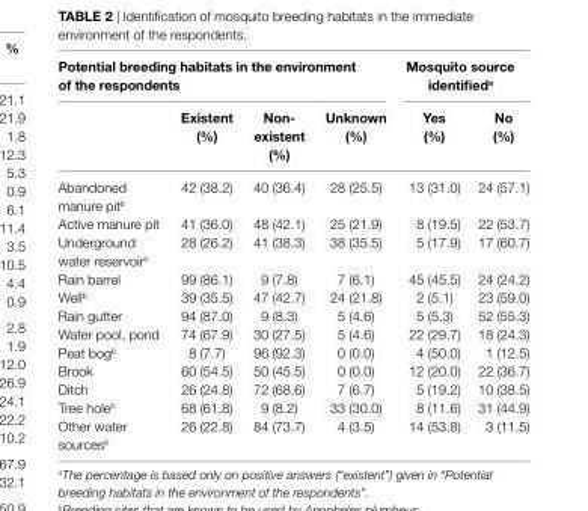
<table><thead><tr><td colspan="4">Potential breeding habitats in the environment of the respondents</td><td colspan="2">Mosquito source identified<sup>a</sup></td></tr><tr><td></td><td>existent (%)</td><td>non- existent (%)</td><td>Unknown (%)</td><td>Yes (%)</td><td>no (%)</td></tr></thead><tbody><tr><td>Abandoned manure pit<sup>b</sup></td><td>42 (38.2)</td><td>40 (36.4)</td><td>28 (25.5)</td><td>13 (31.0)</td><td>24 (57.1)</td></tr><tr><td>Active manure pit</td><td>41 (36.0)</td><td>48 (42.1)</td><td>25 (21.9)</td><td>8 (19.5)</td><td>22 (53.7)</td></tr><tr><td>Underground water reservoir<sup>b</sup></td><td>28 (26.2)</td><td>41 (38.3)</td><td>38 (35.5)</td><td>5 (17.9)</td><td>17 (60.7)</td></tr><tr><td>Rain barrel</td><td>99 (86.1)</td><td>9 (7.8)</td><td>7 (6.1)</td><td>45 (45.5)</td><td>24 (24.2)</td></tr><tr><td>Well<sup>b</sup></td><td>39 (35.5)</td><td>47 (42.7)</td><td>24 (21.8)</td><td>2 (5.1)</td><td>23 (59.0)</td></tr><tr><td>Rain gutter</td><td>94 (87.0)</td><td>9 (8.3)</td><td>5 (4.6)</td><td>5 (5.3)</td><td>52 (55.3)</td></tr><tr><td>Water pool, pond</td><td>74 (67.9)</td><td>30 (27.5)</td><td>5 (4.6)</td><td>22 (29.7)</td><td>18 (24.3)</td></tr><tr><td>Peat bog<sup>b</sup></td><td>8 (7.7)</td><td>96 (92.3)</td><td>0 (0.0)</td><td>4 (50.0)</td><td>1 (12.5)</td></tr><tr><td>Brook</td><td>60 (54.5)</td><td>50 (45.5)</td><td>0 (0.0)</td><td>12 (20.0)</td><td>22 (36.7)</td></tr><tr><td>Ditch</td><td>26 (24.8)</td><td>72 (68.6)</td><td>7 (6.7)</td><td>5 (19.2)</td><td>10 (38.5)</td></tr><tr><td>Tree hole<sup>b</sup></td><td>68 (61.8)</td><td>9 (8.2)</td><td>33 (30.0)</td><td>8 (11.6)</td><td>31 (44.9)</td></tr><tr><td>Other water sources<sup>b</sup></td><td>26 (22.8)</td><td>84 (73.7)</td><td>4 (3.5)</td><td>14 (53.8)</td><td>3 (11.5)</td></tr></tbody></table>